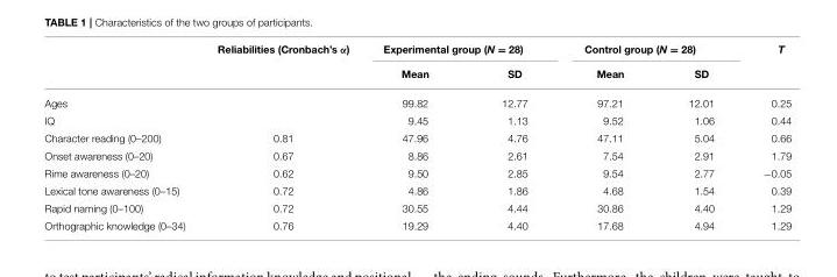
<table><thead><tr><td rowspan="2"></td><td rowspan="2">Reliabilities (Cronbach’s α)</td><td colspan="2">Experimental group (N = 28)</td><td colspan="2">Control group (N = 28)</td><td rowspan="2">T</td></tr><tr><td>Mean</td><td>SD</td><td>Mean</td><td>SD</td></tr></thead><tbody><tr><td>Ages</td><td></td><td>99.82</td><td>12.77</td><td>97.21</td><td>12.01</td><td>0.25</td></tr><tr><td>IQ</td><td></td><td>9.45</td><td>1.13</td><td>9.52</td><td>1.06</td><td>0.44</td></tr><tr><td>Character reading (0–200)</td><td>0.81</td><td>47.96</td><td>4.76</td><td>47.11</td><td>5.04</td><td>0.66</td></tr><tr><td>Onset awareness (0–20)</td><td>0.67</td><td>8.86</td><td>2.61</td><td>7.54</td><td>2.91</td><td>1.79</td></tr><tr><td>Rime awareness (0–20)</td><td>0.62</td><td>9.50</td><td>2.85</td><td>9.54</td><td>2.77</td><td>−0.05</td></tr><tr><td>Lexical tone awareness (0–15)</td><td>0.72</td><td>4.86</td><td>1.86</td><td>4.68</td><td>1.54</td><td>0.39</td></tr><tr><td>Rapid naming (0–100)</td><td>0.72</td><td>30.55</td><td>4.44</td><td>30.86</td><td>4.40</td><td>1.29</td></tr><tr><td>Orthographic knowledge (0–34)</td><td>0.76</td><td>19.29</td><td>4.40</td><td>17.68</td><td>4.94</td><td>1.29</td></tr></tbody></table>